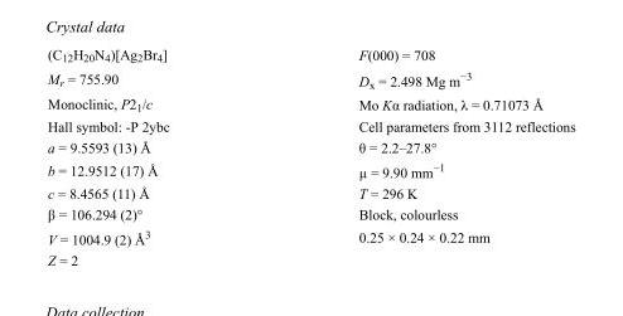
<table><tbody><tr><td>(C<sub>12</sub>H<sub>20</sub>N<sub>4</sub>)[Ag<sub>2</sub>Br<sub>4</sub>]</td><td>F(000) = 708</td></tr><tr><td>M<sub>r</sub> = 755.90</td><td>D<sub>x</sub> = 2.498 Mg m<sup>−3</sup></td></tr><tr><td>Monoclinic, P2<sub>1</sub>/c</td><td>Mo Kα radiation, λ = 0.71073 Å</td></tr><tr><td>Hall symbol: -P 2ybc</td><td>Cell parameters from 3112 reflections</td></tr><tr><td>a = 9.5593 (13) Å</td><td>θ = 2.2–27.8°</td></tr><tr><td>b = 12.9512 (17) Å</td><td>µ = 9.90 mm<sup>−1</sup></td></tr><tr><td>c = 8.4565 (11) Å</td><td>T = 296 K</td></tr><tr><td>β = 106.294 (2)°</td><td>Block, colourless</td></tr><tr><td>V = 1004.9 (2) Å<sup>3</sup></td><td>0.25 × 0.24 × 0.22 mm</td></tr><tr><td>Z = 2</td><td></td></tr></tbody></table>